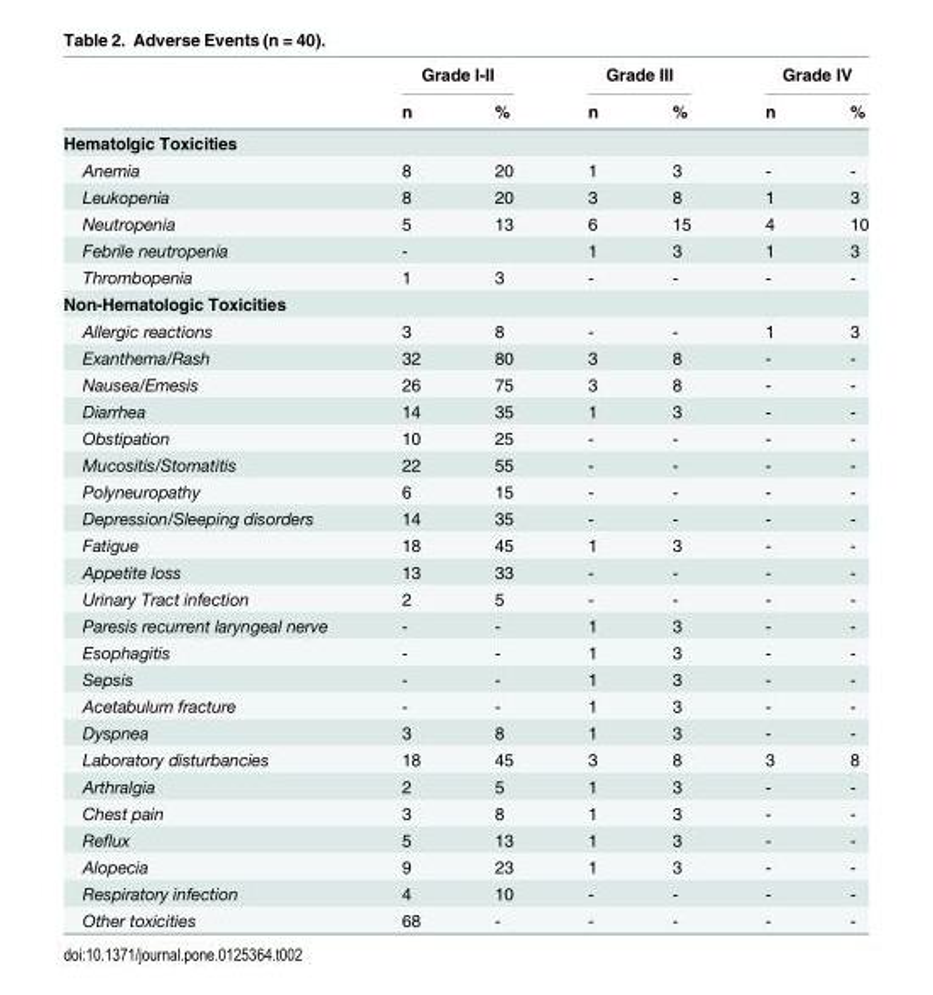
<table><thead><tr><td rowspan="2"></td><td colspan="2">Grade I-II</td><td colspan="2">Grade III</td><td colspan="2">Grade IV</td></tr><tr><td>n</td><td>%</td><td>n</td><td>%</td><td>n</td><td>%</td></tr></thead><tbody><tr><td colspan="7">Hematolgic Toxicities</td></tr><tr><td>Anemia</td><td>8</td><td>20</td><td>1</td><td>3</td><td>-</td><td>-</td></tr><tr><td>Leukopenia</td><td>8</td><td>20</td><td>3</td><td>8</td><td>1</td><td>3</td></tr><tr><td>Neutropenia</td><td>5</td><td>13</td><td>6</td><td>15</td><td>4</td><td>10</td></tr><tr><td>Febrile neutropenia</td><td>-</td><td></td><td>1</td><td>3</td><td>1</td><td>3</td></tr><tr><td>Thrombopenia</td><td>1</td><td>3</td><td>-</td><td>-</td><td>-</td><td>-</td></tr><tr><td colspan="7">Non-Hematologic Toxicities</td></tr><tr><td>Allergic reactions</td><td>3</td><td>8</td><td>-</td><td>-</td><td>1</td><td>3</td></tr><tr><td>Exanthema/Rash</td><td>32</td><td>80</td><td>3</td><td>8</td><td>-</td><td>-</td></tr><tr><td>Nausea/Emesis</td><td>26</td><td>75</td><td>3</td><td>8</td><td>-</td><td>-</td></tr><tr><td>Diarrhea</td><td>14</td><td>35</td><td>1</td><td>3</td><td>-</td><td>-</td></tr><tr><td>Obstipation</td><td>10</td><td>25</td><td>-</td><td>-</td><td>-</td><td>-</td></tr><tr><td>Mucositis/Stomatitis</td><td>22</td><td>55</td><td>-</td><td>-</td><td>-</td><td>-</td></tr><tr><td>Polyneuropathy</td><td>6</td><td>15</td><td>-</td><td>-</td><td>-</td><td>-</td></tr><tr><td>Depression/Sleeping disorders</td><td>14</td><td>35</td><td>-</td><td>-</td><td>-</td><td>-</td></tr><tr><td>Fatigue</td><td>18</td><td>45</td><td>1</td><td>3</td><td>-</td><td>-</td></tr><tr><td>Appetite loss</td><td>13</td><td>33</td><td>-</td><td>-</td><td>-</td><td>-</td></tr><tr><td>Urinary Tract infection</td><td>2</td><td>5</td><td>-</td><td>-</td><td>-</td><td>-</td></tr><tr><td>Paresis recurrent laryngeal nerve</td><td>-</td><td>-</td><td>1</td><td>3</td><td>-</td><td>-</td></tr><tr><td>Esophagitis</td><td>-</td><td>-</td><td>1</td><td>3</td><td>-</td><td>-</td></tr><tr><td>Sepsis</td><td>-</td><td>-</td><td>1</td><td>3</td><td>-</td><td>-</td></tr><tr><td>Acetabulum fracture</td><td>-</td><td>-</td><td>1</td><td>3</td><td>-</td><td>-</td></tr><tr><td>Dyspnea</td><td>3</td><td>8</td><td>1</td><td>3</td><td>-</td><td>-</td></tr><tr><td>Laboratory disturbancies</td><td>18</td><td>45</td><td>3</td><td>8</td><td>3</td><td>8</td></tr><tr><td>Arthralgia</td><td>2</td><td>5</td><td>1</td><td>3</td><td>-</td><td>-</td></tr><tr><td>Chest pain</td><td>3</td><td>8</td><td>1</td><td>3</td><td>-</td><td>-</td></tr><tr><td>Reflux</td><td>5</td><td>13</td><td>1</td><td>3</td><td>-</td><td>-</td></tr><tr><td>Alopecia</td><td>9</td><td>23</td><td>1</td><td>3</td><td>-</td><td>-</td></tr><tr><td>Respiratory infection</td><td>4</td><td>10</td><td>-</td><td>-</td><td>-</td><td>-</td></tr><tr><td>Other toxicities</td><td>68</td><td>-</td><td>-</td><td>-</td><td>-</td><td>-</td></tr></tbody></table>